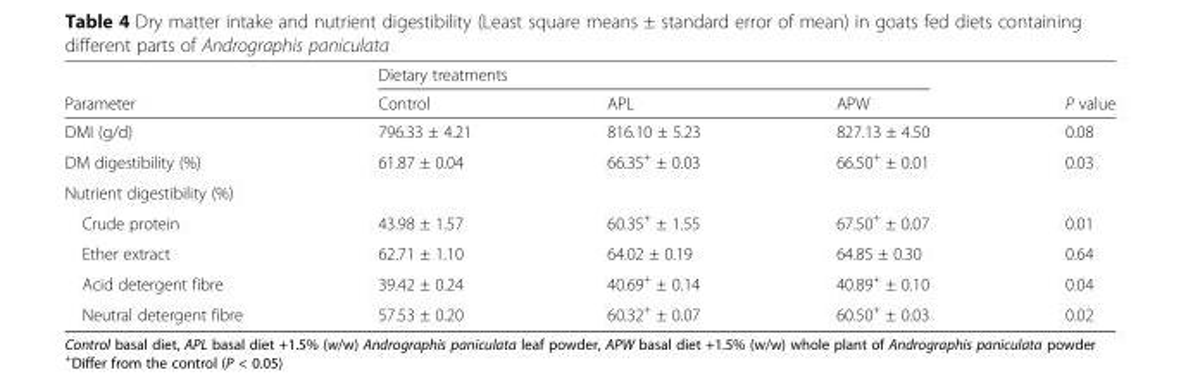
<table><thead><tr><td rowspan="2">Parameter</td><td colspan="3">Dietary treatments</td><td rowspan="2">P value</td></tr><tr><td>Control</td><td>APL</td><td>APW</td></tr></thead><tbody><tr><td>DMI (g/d)</td><td>796.33 ± 4.21</td><td>816.10 ± 5.23</td><td>827.13 ± 4.50</td><td>0.08</td></tr><tr><td>DM digestibility (%)</td><td>61.87 ± 0.04</td><td>66.35<sup>+</sup> ± 0.03</td><td>66.50<sup>+</sup> ± 0.01</td><td>0.03</td></tr><tr><td colspan="5">Nutrient digestibility (%)</td></tr><tr><td>Crude protein</td><td>43.98 ± 1.57</td><td>60.35<sup>+</sup> ± 1.55</td><td>67.50<sup>+</sup> ± 0.07</td><td>0.01</td></tr><tr><td>Ether extract</td><td>62.71 ± 1.10</td><td>64.02 ± 0.19</td><td>64.85 ± 0.30</td><td>0.64</td></tr><tr><td>Acid detergent fibre</td><td>39.42 ± 0.24</td><td>40.69<sup>+</sup> ± 0.14</td><td>40.89<sup>+</sup> ± 0.10</td><td>0.04</td></tr><tr><td>Neutral detergent fibre</td><td>57.53 ± 0.20</td><td>60.32<sup>+</sup> ± 0.07</td><td>60.50<sup>+</sup> ± 0.03</td><td>0.02</td></tr></tbody></table>